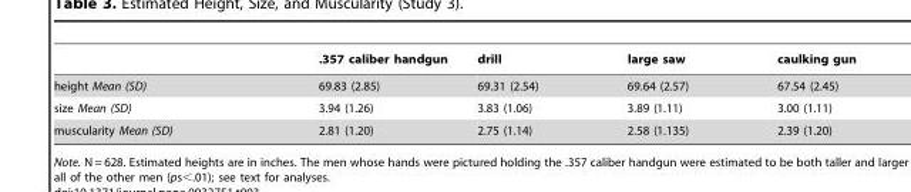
<table><thead><tr><td></td><td>.357 caliber handgun</td><td>drill</td><td>large saw</td><td>caulking gun</td></tr></thead><tbody><tr><td>height Mean (SD)</td><td>69.83 (2.85)</td><td>69.31 (2.54)</td><td>69.64 (2.57)</td><td>67.54 (2.45)</td></tr><tr><td>size Mean (SD)</td><td>3.94 (1.26)</td><td>3.83 (1.06)</td><td>3.89 (1.11)</td><td>3.00 (1.11)</td></tr><tr><td>muscularity Mean (SD)</td><td>2.81 (1.20)</td><td>2.75 (1.14)</td><td>2.58 (1.135)</td><td>2.39 (1.20)</td></tr></tbody></table>